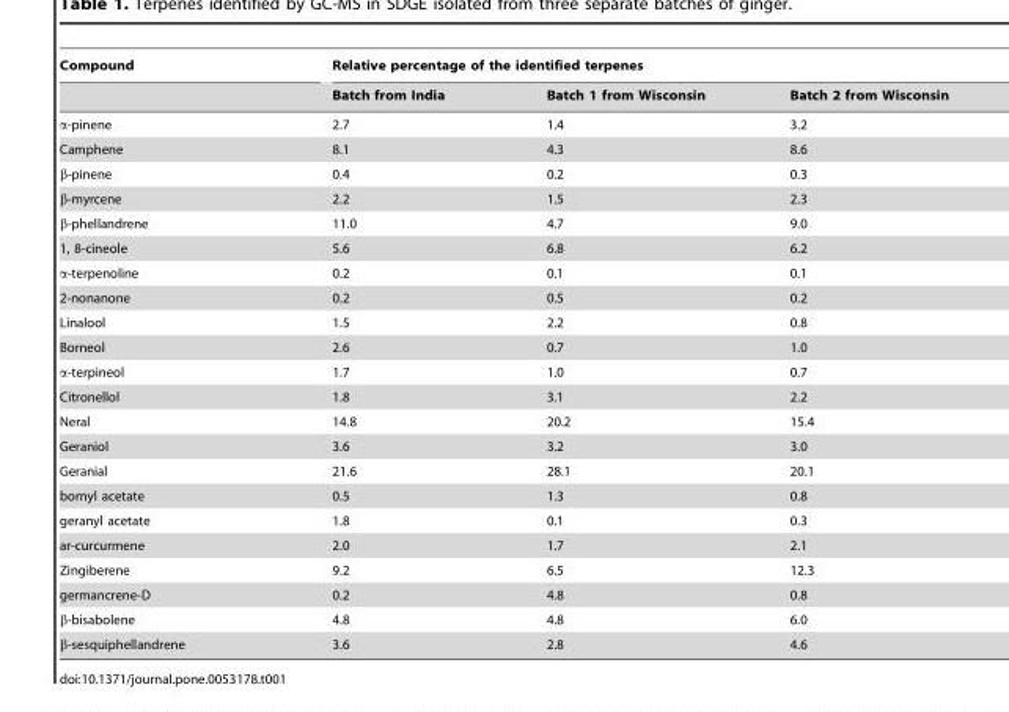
<table><thead><tr><td rowspan="2">Compound</td><td colspan="3">Relative percentage of the identified terpenes</td></tr><tr><td>Batch from India</td><td>Batch 1 from Wisconsin</td><td>Batch 2 from Wisconsin</td></tr></thead><tbody><tr><td>α-pinene</td><td>2.7</td><td>1.4</td><td>3.2</td></tr><tr><td>Camphene</td><td>8.1</td><td>4.3</td><td>8.6</td></tr><tr><td>β-pinene</td><td>0.4</td><td>0.2</td><td>0.3</td></tr><tr><td>β-myrcene</td><td>2.2</td><td>1.5</td><td>2.3</td></tr><tr><td>β-phellandrene</td><td>11.0</td><td>4.7</td><td>9.0</td></tr><tr><td>1, 8-cineole</td><td>5.6</td><td>6.8</td><td>6.2</td></tr><tr><td>α-terpenoline</td><td>0.2</td><td>0.1</td><td>0.1</td></tr><tr><td>2-nonanone</td><td>0.2</td><td>0.5</td><td>0.2</td></tr><tr><td>Linalool</td><td>1.5</td><td>2.2</td><td>0.8</td></tr><tr><td>Borneol</td><td>2.6</td><td>0.7</td><td>1.0</td></tr><tr><td>α-terpineol</td><td>1.7</td><td>1.0</td><td>0.7</td></tr><tr><td>Citronellol</td><td>1.8</td><td>3.1</td><td>2.2</td></tr><tr><td>Neral</td><td>14.8</td><td>20.2</td><td>15.4</td></tr><tr><td>Geraniol</td><td>3.6</td><td>3.2</td><td>3.0</td></tr><tr><td>Geranial</td><td>21.6</td><td>28.1</td><td>20.1</td></tr><tr><td>bornyl acetate</td><td>0.5</td><td>1.3</td><td>0.8</td></tr><tr><td>geranyl acetate</td><td>1.8</td><td>0.1</td><td>0.3</td></tr><tr><td>ar-curcurmene</td><td>2.0</td><td>1.7</td><td>2.1</td></tr><tr><td>Zingiberene</td><td>9.2</td><td>6.5</td><td>12.3</td></tr><tr><td>germancrene-D</td><td>0.2</td><td>4.8</td><td>0.8</td></tr><tr><td>β-bisabolene</td><td>4.8</td><td>4.8</td><td>6.0</td></tr><tr><td>β-sesquiphellandrene</td><td>3.6</td><td>2.8</td><td>4.6</td></tr></tbody></table>